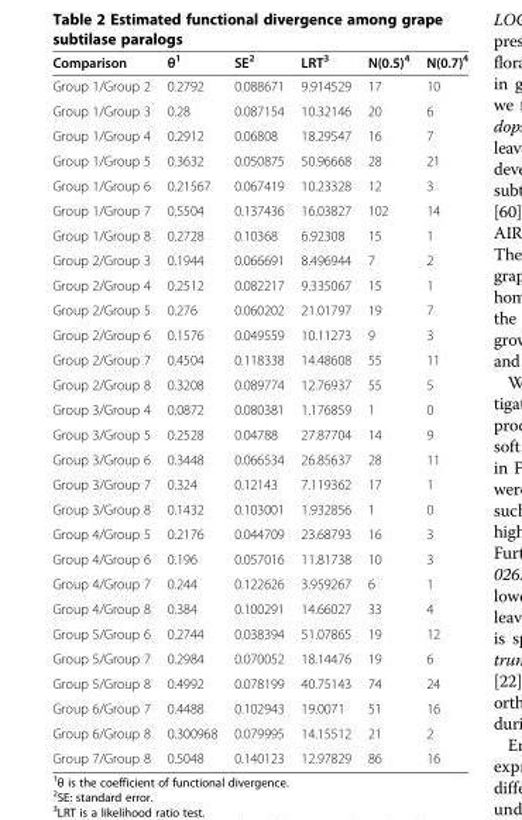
<table><thead><tr><td>Comparison</td><td>θ<sup>1</sup></td><td>SE<sup>2</sup></td><td>LRT<sup>3</sup></td><td>N(0.5)<sup>4</sup></td><td>N(0.7)<sup>4</sup></td></tr></thead><tbody><tr><td>Group 1/Group 2</td><td>0.2792</td><td>0.088671</td><td>9.914529</td><td>17</td><td>10</td></tr><tr><td>Group 1/Group 3</td><td>0.28</td><td>0.087154</td><td>10.32146</td><td>20</td><td>6</td></tr><tr><td>Group 1/Group 4</td><td>0.2912</td><td>0.06808</td><td>18.29547</td><td>16</td><td>7</td></tr><tr><td>Group 1/Group 5</td><td>0.3632</td><td>0.050875</td><td>50.96668</td><td>28</td><td>21</td></tr><tr><td>Group 1/Group 6</td><td>0.21567</td><td>0.067419</td><td>10.23328</td><td>12</td><td>3</td></tr><tr><td>Group 1/Group 7</td><td>0.5504</td><td>0.137436</td><td>16.03827</td><td>102</td><td>14</td></tr><tr><td>Group 1/Group 8</td><td>0.2728</td><td>0.10368</td><td>6.92308</td><td>15</td><td>1</td></tr><tr><td>Group 2/Group 3</td><td>0.1944</td><td>0.066691</td><td>8.496944</td><td>7</td><td>2</td></tr><tr><td>Group 2/Group 4</td><td>0.2512</td><td>0.082217</td><td>9.335067</td><td>15</td><td>1</td></tr><tr><td>Group 2/Group 5</td><td>0.276</td><td>0.060202</td><td>21.01797</td><td>19</td><td>7</td></tr><tr><td>Group 2/Group 6</td><td>0.1576</td><td>0.049559</td><td>10.11273</td><td>9</td><td>3</td></tr><tr><td>Group 2/Group 7</td><td>0.4504</td><td>0.118338</td><td>14.48608</td><td>55</td><td>11</td></tr><tr><td>Group 2/Group 8</td><td>0.3208</td><td>0.089774</td><td>12.76937</td><td>55</td><td>5</td></tr><tr><td>Group 3/Group 4</td><td>0.0872</td><td>0.080381</td><td>1.176859</td><td>1</td><td>0</td></tr><tr><td>Group 3/Group 5</td><td>0.2528</td><td>0.04788</td><td>27.87704</td><td>14</td><td>9</td></tr><tr><td>Group 3/Group 6</td><td>0.3448</td><td>0.066534</td><td>26.85637</td><td>28</td><td>11</td></tr><tr><td>Group 3/Group 7</td><td>0.324</td><td>0.12143</td><td>7.119362</td><td>17</td><td>1</td></tr><tr><td>Group 3/Group 8</td><td>0.1432</td><td>0.103001</td><td>1.932856</td><td>1</td><td>0</td></tr><tr><td>Group 4/Group 5</td><td>0.2176</td><td>0.044709</td><td>23.68793</td><td>16</td><td>3</td></tr><tr><td>Group 4/Group 6</td><td>0.196</td><td>0.057016</td><td>11.81738</td><td>10</td><td>3</td></tr><tr><td>Group 4/Group 7</td><td>0.244</td><td>0.122626</td><td>3.959267</td><td>6</td><td>1</td></tr><tr><td>Group 4/Group 8</td><td>0.384</td><td>0.100291</td><td>14.66027</td><td>33</td><td>4</td></tr><tr><td>Group 5/Group 6</td><td>0.2744</td><td>0.038394</td><td>51.07865</td><td>19</td><td>12</td></tr><tr><td>Group 5/Group 7</td><td>0.2984</td><td>0.070052</td><td>18.14476</td><td>19</td><td>6</td></tr><tr><td>Group 5/Group 8</td><td>0.4992</td><td>0.078199</td><td>40.75143</td><td>74</td><td>24</td></tr><tr><td>Group 6/Group 7</td><td>0.4488</td><td>0.102943</td><td>19.0071</td><td>51</td><td>16</td></tr><tr><td>Group 6/Group 8</td><td>0.300968</td><td>0.079995</td><td>14.15512</td><td>21</td><td>2</td></tr><tr><td>Group 7/Group 8</td><td>0.5048</td><td>0.140123</td><td>12.97829</td><td>86</td><td>16</td></tr></tbody></table>